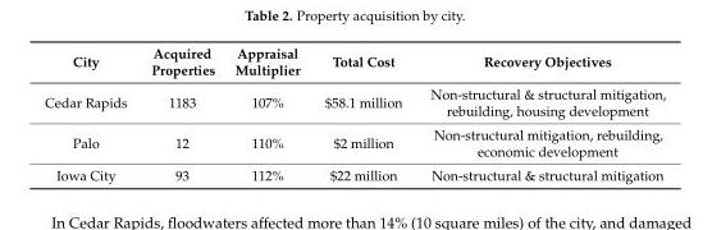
<table><thead><tr><td>City</td><td>Acquired Properties</td><td>Appraisal Multiplier</td><td>Total Cost</td><td>Recovery Objectives</td></tr></thead><tbody><tr><td>Cedar Rapids</td><td>1183</td><td>107%</td><td>$58.1 million</td><td>Non-structural &amp; structural mitigation, rebuilding, housing development</td></tr><tr><td>Palo</td><td>12</td><td>110%</td><td>$2 million</td><td>Non-structural mitigation, rebuilding, economic development</td></tr><tr><td>Iowa City</td><td>93</td><td>112%</td><td>$22 million</td><td>Non-structural &amp; structural mitigation</td></tr></tbody></table>